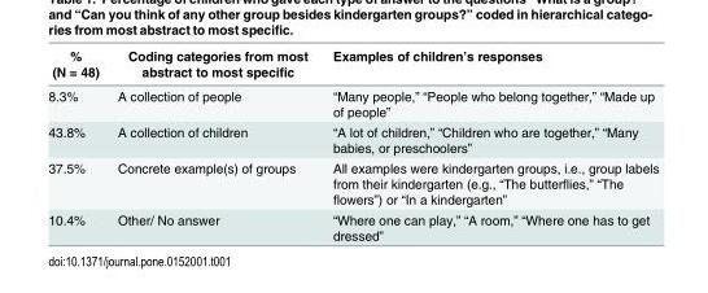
<table><thead><tr><td>% (N = 48)</td><td>Coding categories from most abstract to most specific</td><td>Examples of children’s responses</td></tr></thead><tbody><tr><td>8.3%</td><td>A collection of people</td><td>“Many people,” “People who belong together,” “Made up of people”</td></tr><tr><td>43.8%</td><td>A collection of children</td><td>“A lot of children,” “Children who are together,” “Many babies, or preschoolers”</td></tr><tr><td>37.5%</td><td>Concrete example(s) of groups</td><td>All examples were kindergarten groups, i.e., group labels from their kindergarten (e.g., “The butterflies,” “The flowers”) or “In a kindergarten”</td></tr><tr><td>10.4%</td><td>Other/ No answer</td><td>“Where one can play,” “A room,” “Where one has to get dressed”</td></tr></tbody></table>